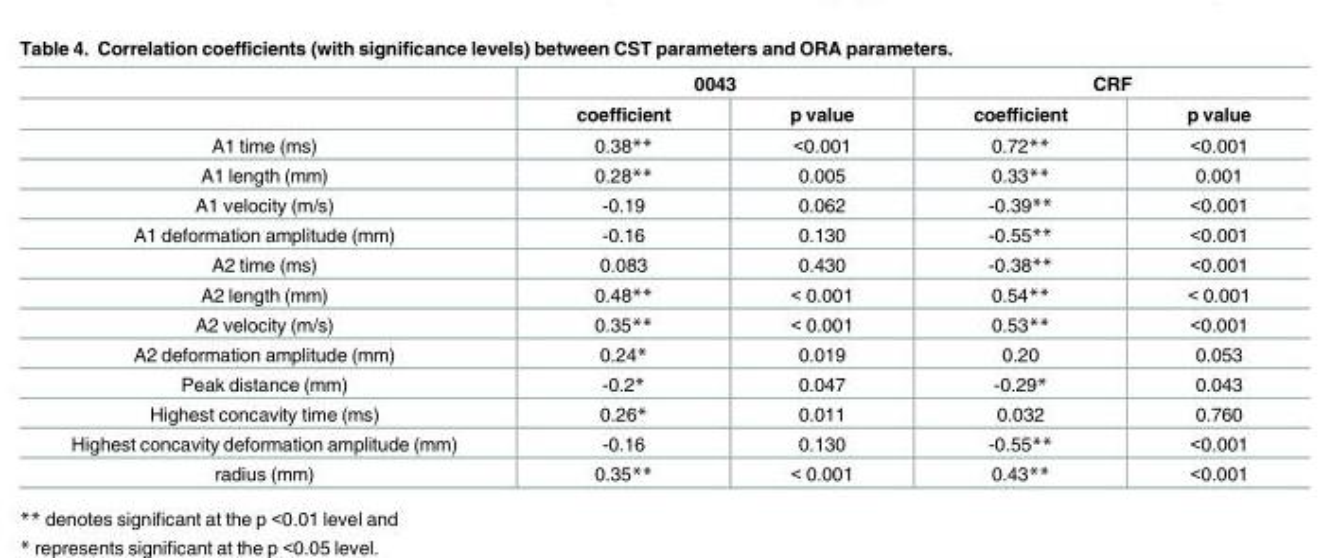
<table><thead><tr><td rowspan="2"></td><td colspan="2">0043</td><td colspan="2">CRF</td></tr><tr><td>coefficient</td><td>p value</td><td>coefficient</td><td>p value</td></tr></thead><tbody><tr><td>A1 time (ms)</td><td>0.38**</td><td>&lt;0.001</td><td>0.72**</td><td>&lt;0.001</td></tr><tr><td>A1 length (mm)</td><td>0.28**</td><td>0.005</td><td>0.33**</td><td>0.001</td></tr><tr><td>A1 velocity (m/s)</td><td>-0.19</td><td>0.062</td><td>-0.39**</td><td>&lt;0.001</td></tr><tr><td>A1 deformation amplitude (mm)</td><td>-0.16</td><td>0.130</td><td>-0.55**</td><td>&lt;0.001</td></tr><tr><td>A2 time (ms)</td><td>0.083</td><td>0.430</td><td>-0.38**</td><td>&lt;0.001</td></tr><tr><td>A2 length (mm)</td><td>0.48**</td><td>&lt; 0.001</td><td>0.54**</td><td>&lt; 0.001</td></tr><tr><td>A2 velocity (m/s)</td><td>0.35**</td><td>&lt; 0.001</td><td>0.53**</td><td>&lt;0.001</td></tr><tr><td>A2 deformation amplitude (mm)</td><td>0.24*</td><td>0.019</td><td>0.20</td><td>0.053</td></tr><tr><td>Peak distance (mm)</td><td>-0.2*</td><td>0.047</td><td>-0.29*</td><td>0.043</td></tr><tr><td>Highest concavity time (ms)</td><td>0.26*</td><td>0.011</td><td>0.032</td><td>0.760</td></tr><tr><td>Highest concavity deformation amplitude (mm)</td><td>-0.16</td><td>0.130</td><td>-0.55**</td><td>&lt;0.001</td></tr><tr><td>radius (mm)</td><td>0.35**</td><td>&lt; 0.001</td><td>0.43**</td><td>&lt;0.001</td></tr></tbody></table>